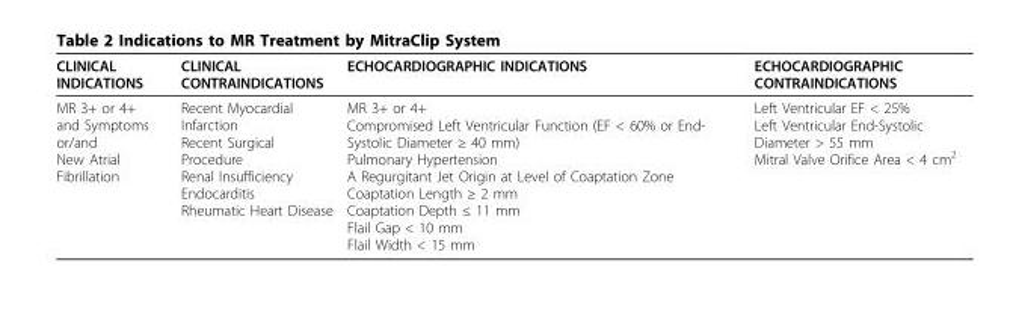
<table><thead><tr><td>CLINICAL INDICATIONS</td><td>CLINICAL CONTRAINDICATIONS</td><td>ECHOCARDIOGRAPHIC INDICATIONS</td><td>ECHOCARDIOGRAPHIC CONTRAINDICATIONS</td></tr></thead><tbody><tr><td>MR 3+ or 4+ and Symptoms or/and New Atrial Fibrillation</td><td>Recent Myocardial Infarction Recent Surgical Procedure Renal Insufficiency Endocarditis Rheumatic Heart Disease</td><td>MR 3+ or 4+ Compromised Left Ventricular Function (EF &lt; 60% or End- Systolic Diameter ≥ 40 mm) Pulmonary Hypertension A Regurgitant Jet Origin at Level of Coaptation Zone Coaptation Length ≥ 2 mm Coaptation Depth ≤ 11 mm Flail Gap &lt; 10 mm Flail Width &lt; 15 mm</td><td>Left Ventricular EF &lt; 25% Left Ventricular End-Systolic Diameter &gt; 55 mm Mitral Valve Orifice Area &lt; 4 cm<sup>2</sup></td></tr></tbody></table>